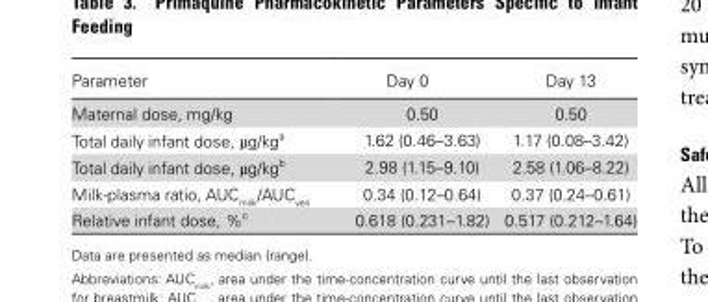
<table><thead><tr><td>Parameter</td><td>Day 0</td><td>Day 13</td></tr></thead><tbody><tr><td>Maternal dose, mg/kg</td><td>0.50</td><td>0.50</td></tr><tr><td>Total daily infant dose, µg/kg<sup>a</sup></td><td>1.62 (0.46–3.63)</td><td>1.17 (0.08–3.42)</td></tr><tr><td>Total daily infant dose, µg/kg<sup>b</sup></td><td>2.98 (1.15–9.10)</td><td>2.58 (1.06–8.22)</td></tr><tr><td>Milk-plasma ratio, AUC<sub>milk</sub>/AUC<sub>ven</sub></td><td>0.34 (0.12–0.64)</td><td>0.37 (0.24–0.61)</td></tr><tr><td>Relative infant dose, %<sup>c</sup></td><td>0.618 (0.231–1.82)</td><td>0.517 (0.212–1.64)</td></tr></tbody></table>